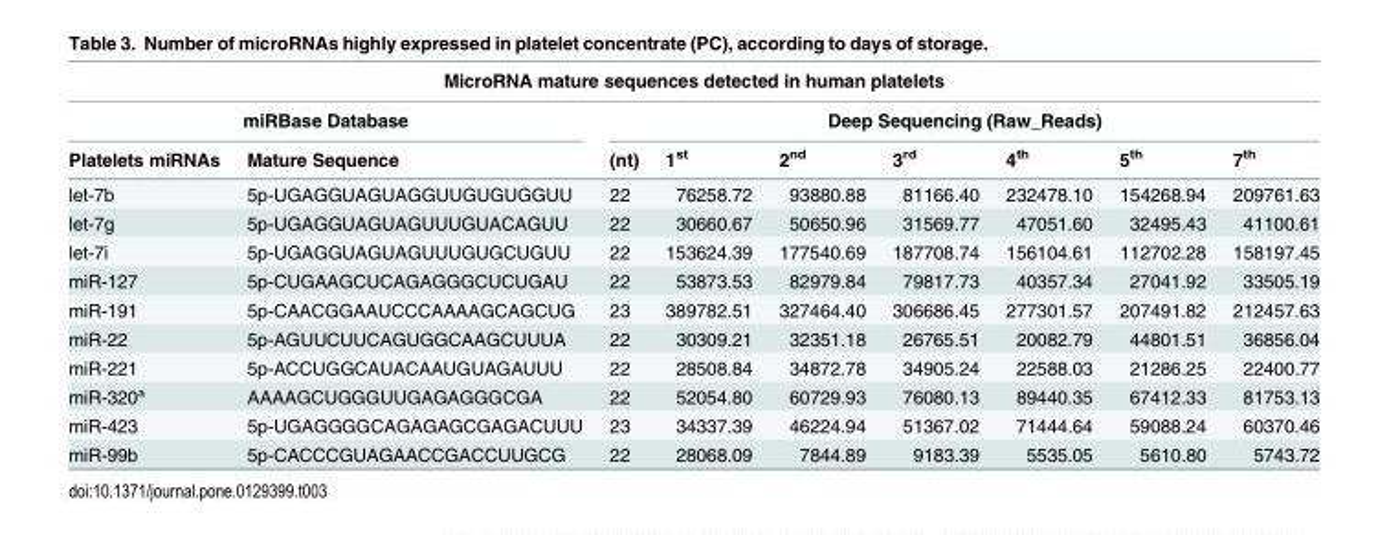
<table><thead><tr><td colspan="9">MicroRNA mature sequences detected in human platelets</td></tr><tr><td colspan="2">miRBase Database</td><td colspan="7">Deep Sequencing (Raw_Reads)</td></tr><tr><td>Platelets miRNAs</td><td>Mature Sequence</td><td>(nt)</td><td>1<sup>st</sup></td><td>2<sup>nd</sup></td><td>3<sup>rd</sup></td><td>4<sup>th</sup></td><td>5<sup>th</sup></td><td>7<sup>th</sup></td></tr></thead><tbody><tr><td>let-7b</td><td>5p-UGAGGUAGUAGGUUGUGUGGUU</td><td>22</td><td>76258.72</td><td>93880.88</td><td>81166.40</td><td>232478.10</td><td>154268.94</td><td>209761.63</td></tr><tr><td>let-7g</td><td>5p-UGAGGUAGUAGUUUGUACAGUU</td><td>22</td><td>30660.67</td><td>50650.96</td><td>31569.77</td><td>47051.60</td><td>32495.43</td><td>41100.61</td></tr><tr><td>let-7i</td><td>5p-UGAGGUAGUAGUUUGUGCUGUU</td><td>22</td><td>153624.39</td><td>177540.69</td><td>187708.74</td><td>156104.61</td><td>112702.28</td><td>158197.45</td></tr><tr><td>miR-127</td><td>5p-CUGAAGCUCAGAGGGCUCUGAU</td><td>22</td><td>53873.53</td><td>82979.84</td><td>79817.73</td><td>40357.34</td><td>27041.92</td><td>33505.19</td></tr><tr><td>miR-191</td><td>5p-CAACGGAAUCCCAAAAGCAGCUG</td><td>23</td><td>389782.51</td><td>327464.40</td><td>306686.45</td><td>277301.57</td><td>207491.82</td><td>212457.63</td></tr><tr><td>miR-22</td><td>5p-AGUUCUUCAGUGGCAAGCUUUA</td><td>22</td><td>30309.21</td><td>32351.18</td><td>26765.51</td><td>20082.79</td><td>44801.51</td><td>36856.04</td></tr><tr><td>miR-221</td><td>5p-ACCUGGCAUACAAUGUAGAUUU</td><td>22</td><td>28508.84</td><td>34872.78</td><td>34905.24</td><td>22588.03</td><td>21286.25</td><td>22400.77</td></tr><tr><td>miR-320ª</td><td>AAAAGCUGGGUUGAGAGGGCGA</td><td>22</td><td>52054.80</td><td>60729.93</td><td>76080.13</td><td>89440.35</td><td>67412.33</td><td>81753.13</td></tr><tr><td>miR-423</td><td>5p-UGAGGGGCAGAGAGCGAGACUUU</td><td>23</td><td>34337.39</td><td>46224.94</td><td>51367.02</td><td>71444.64</td><td>59088.24</td><td>60370.46</td></tr><tr><td>miR-99b</td><td>5p-CACCCGUAGAACCGACCUUGCG</td><td>22</td><td>28068.09</td><td>7844.89</td><td>9183.39</td><td>5535.05</td><td>5610.80</td><td>5743.72</td></tr></tbody></table>